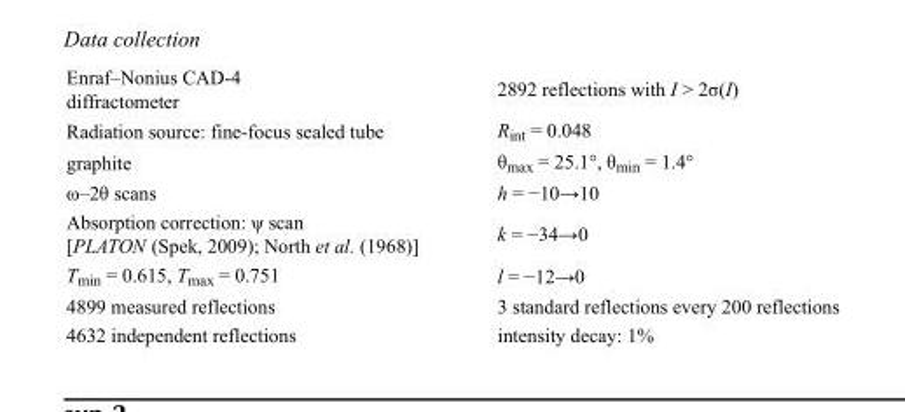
<table><tbody><tr><td>Enraf–Nonius CAD-4 diffractometer</td><td>2892 reflections with I &gt; 2σ(I)</td></tr><tr><td>Radiation source: fine-focus sealed tube</td><td>R<sub>int</sub> = 0.048</td></tr><tr><td>graphite</td><td>θ<sub>max</sub> = 25.1°, θ<sub>min</sub> = 1.4°</td></tr><tr><td>ω–2θ scans</td><td>h = −10→10</td></tr><tr><td>Absorption correction: ψ scan [PLATON (Spek, 2009); North et al. (1968)]</td><td>k = −34→0</td></tr><tr><td>T<sub>min</sub> = 0.615, T<sub>max</sub> = 0.751</td><td>l = −12→0</td></tr><tr><td>4899 measured reflections</td><td>3 standard reflections every 200 reflections</td></tr><tr><td>4632 independent reflections</td><td>intensity decay: 1%</td></tr></tbody></table>